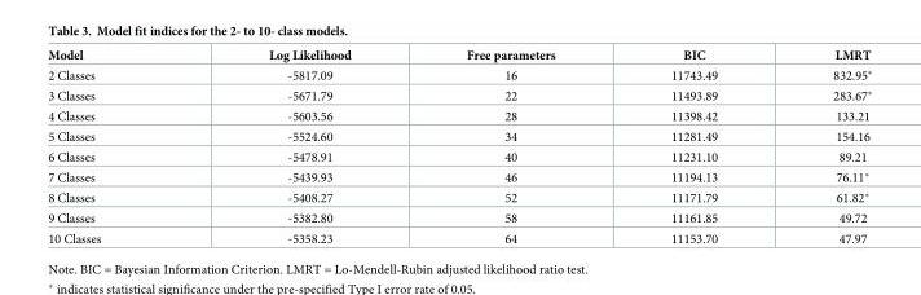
<table><thead><tr><td>Model</td><td>Log Likelihood</td><td>Free parameters</td><td>BIC</td><td>LMRT</td></tr></thead><tbody><tr><td>2 Classes</td><td>-5817.09</td><td>16</td><td>11743.49</td><td>832.95*</td></tr><tr><td>3 Classes</td><td>-5671.79</td><td>22</td><td>11493.89</td><td>283.67*</td></tr><tr><td>4 Classes</td><td>-5603.56</td><td>28</td><td>11398.42</td><td>133.21</td></tr><tr><td>5 Classes</td><td>-5524.60</td><td>34</td><td>11281.49</td><td>154.16</td></tr><tr><td>6 Classes</td><td>-5478.91</td><td>40</td><td>11231.10</td><td>89.21</td></tr><tr><td>7 Classes</td><td>-5439.93</td><td>46</td><td>11194.13</td><td>76.11*</td></tr><tr><td>8 Classes</td><td>-5408.27</td><td>52</td><td>11171.79</td><td>61.82*</td></tr><tr><td>9 Classes</td><td>-5382.80</td><td>58</td><td>11161.85</td><td>49.72</td></tr><tr><td>10 Classes</td><td>-5358.23</td><td>64</td><td>11153.70</td><td>47.97</td></tr></tbody></table>